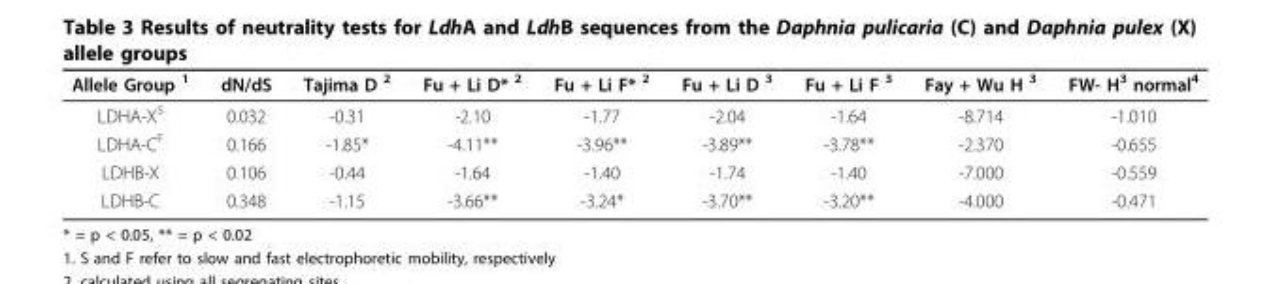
<table><thead><tr><td>Allele Group <sup>1</sup></td><td>dN/dS</td><td>Tajima D <sup>2</sup></td><td>Fu + Li D* <sup>2</sup></td><td>Fu + Li F* <sup>2</sup></td><td>Fu + Li D <sup>3</sup></td><td>Fu + Li F <sup>3</sup></td><td>Fay + Wu H <sup>3</sup></td><td>FW- H<sup>3</sup> normal<sup>4</sup></td></tr></thead><tbody><tr><td>LDHA-X<sup>S</sup></td><td>0.032</td><td>-0.31</td><td>-2.10</td><td>-1.77</td><td>-2.04</td><td>-1.64</td><td>-8.714</td><td>-1.010</td></tr><tr><td>LDHA-C<sup>F</sup></td><td>0.166</td><td>-1.85*</td><td>-4.11**</td><td>-3.96**</td><td>-3.89**</td><td>-3.78**</td><td>-2.370</td><td>-0.655</td></tr><tr><td>LDHB-X</td><td>0.106</td><td>-0.44</td><td>-1.64</td><td>-1.40</td><td>-1.74</td><td>-1.40</td><td>-7.000</td><td>-0.559</td></tr><tr><td>LDHB-C</td><td>0.348</td><td>-1.15</td><td>-3.66**</td><td>-3.24*</td><td>-3.70**</td><td>-3.20**</td><td>-4.000</td><td>-0.471</td></tr></tbody></table>